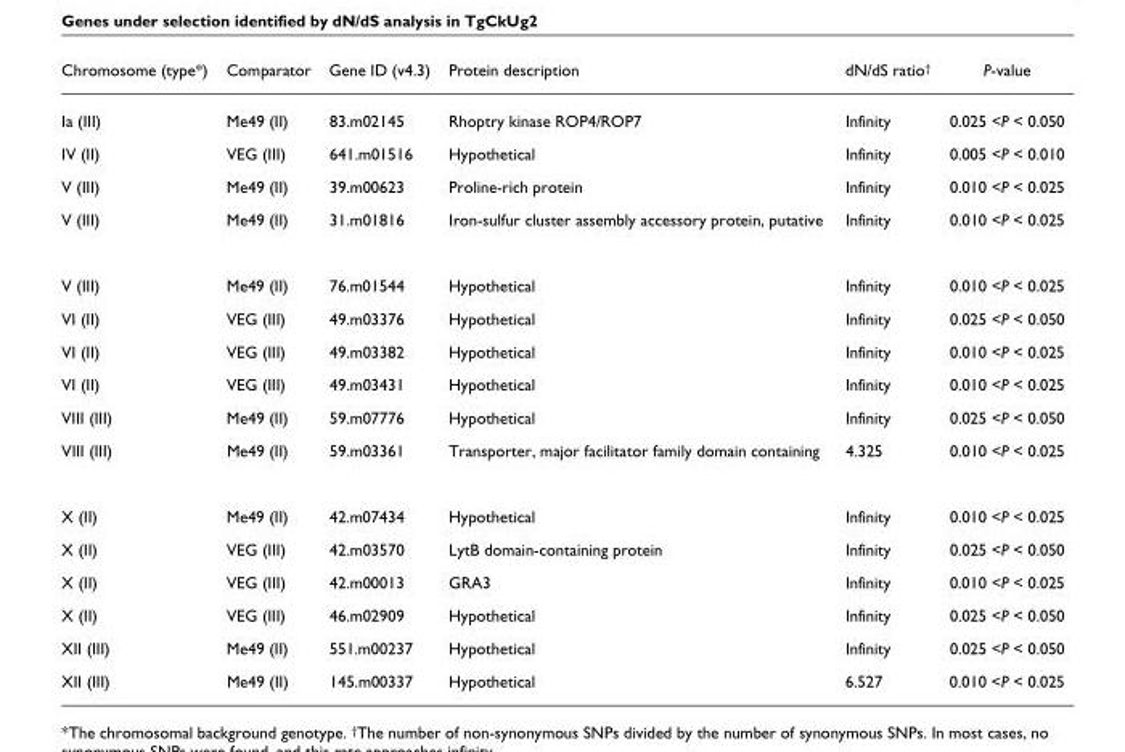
<table><thead><tr><td>Chromosome (type*)</td><td>Comparator</td><td>Gene ID (v4.3)</td><td>Protein description</td><td>dN/dS ratio<sup>†</sup></td><td>P-value</td></tr></thead><tbody><tr><td>Ia (III)</td><td>Me49 (II)</td><td>83.m02145</td><td>Rhoptry kinase ROP4/ROP7</td><td>Infinity</td><td>0.025 &lt;P &lt; 0.050</td></tr><tr><td>IV (II)</td><td>VEG (III)</td><td>641.m01516</td><td>Hypothetical</td><td>Infinity</td><td>0.005 &lt;P &lt; 0.010</td></tr><tr><td>V (III)</td><td>Me49 (II)</td><td>39.m00623</td><td>Proline-rich protein</td><td>Infinity</td><td>0.010 &lt;P &lt; 0.025</td></tr><tr><td>V (III)</td><td>Me49 (II)</td><td>31.m01816</td><td>Iron-sulfur cluster assembly accessory protein, putative</td><td>Infinity</td><td>0.010 &lt;P &lt; 0.025</td></tr><tr><td>V (III)</td><td>Me49 (II)</td><td>76.m01544</td><td>Hypothetical</td><td>Infinity</td><td>0.010 &lt;P &lt; 0.025</td></tr><tr><td>VI (II)</td><td>VEG (III)</td><td>49.m03376</td><td>Hypothetical</td><td>Infinity</td><td>0.025 &lt;P &lt; 0.050</td></tr><tr><td>VI (II)</td><td>VEG (III)</td><td>49.m03382</td><td>Hypothetical</td><td>Infinity</td><td>0.010 &lt;P &lt; 0.025</td></tr><tr><td>VI (II)</td><td>VEG (III)</td><td>49.m03431</td><td>Hypothetical</td><td>Infinity</td><td>0.010 &lt;P &lt; 0.025</td></tr><tr><td>VIII (III)</td><td>Me49 (II)</td><td>59.m07776</td><td>Hypothetical</td><td>Infinity</td><td>0.025 &lt;P &lt; 0.050</td></tr><tr><td>VIII (III)</td><td>Me49 (II)</td><td>59.m03361</td><td>Transporter, major facilitator family domain containing</td><td>4.325</td><td>0.010 &lt;P &lt; 0.025</td></tr><tr><td>X (II)</td><td>Me49 (II)</td><td>42.m07434</td><td>Hypothetical</td><td>Infinity</td><td>0.010 &lt;P &lt; 0.025</td></tr><tr><td>X (II)</td><td>VEG (III)</td><td>42.m03570</td><td>LytB domain-containing protein</td><td>Infinity</td><td>0.025 &lt;P &lt; 0.050</td></tr><tr><td>X (II)</td><td>VEG (III)</td><td>42.m00013</td><td>GRA3</td><td>Infinity</td><td>0.010 &lt;P &lt; 0.025</td></tr><tr><td>X (II)</td><td>VEG (III)</td><td>46.m02909</td><td>Hypothetical</td><td>Infinity</td><td>0.025 &lt;P &lt; 0.050</td></tr><tr><td>XII (III)</td><td>Me49 (II)</td><td>551.m00237</td><td>Hypothetical</td><td>Infinity</td><td>0.025 &lt;P &lt; 0.050</td></tr><tr><td>XII (III)</td><td>Me49 (II)</td><td>145.m00337</td><td>Hypothetical</td><td>6.527</td><td>0.010 &lt;P &lt; 0.025</td></tr></tbody></table>